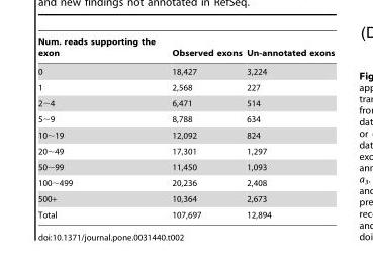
<table><thead><tr><td>Num. reads supporting the exon</td><td>Observed exons</td><td>Un-annotated exons</td></tr></thead><tbody><tr><td>0</td><td>18,427</td><td>3,224</td></tr><tr><td>1</td><td>2,568</td><td>227</td></tr><tr><td>2∼4</td><td>6,471</td><td>514</td></tr><tr><td>5∼9</td><td>8,788</td><td>634</td></tr><tr><td>10∼19</td><td>12,092</td><td>824</td></tr><tr><td>20∼49</td><td>17,301</td><td>1,297</td></tr><tr><td>50∼99</td><td>11,450</td><td>1,093</td></tr><tr><td>100∼499</td><td>20,236</td><td>2,408</td></tr><tr><td>500+</td><td>10,364</td><td>2,673</td></tr><tr><td>Total</td><td>107,697</td><td>12,894</td></tr></tbody></table>